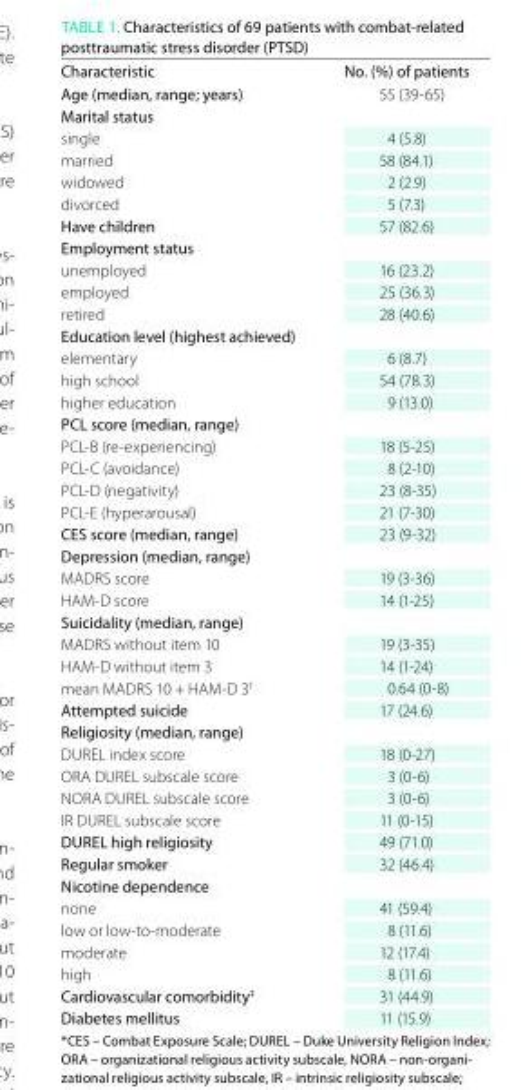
<table><thead><tr><td>Characteristic</td><td>No. (%) of patients</td></tr></thead><tbody><tr><td>Age (median, range; years)</td><td>55 (39-65)</td></tr><tr><td colspan="2">Marital status</td></tr><tr><td>single</td><td>4 (5.8)</td></tr><tr><td>married</td><td>58 (84.1)</td></tr><tr><td>widowed</td><td>2 (2.9)</td></tr><tr><td>divorced</td><td>5 (7.3)</td></tr><tr><td>Have children</td><td>57 (82.6)</td></tr><tr><td colspan="2">Employment status</td></tr><tr><td>unemployed</td><td>16 (23.2)</td></tr><tr><td>employed</td><td>25 (36.3)</td></tr><tr><td>retired</td><td>28 (40.6)</td></tr><tr><td colspan="2">Education level (highest achieved)</td></tr><tr><td>elementary</td><td>6 (8.7)</td></tr><tr><td>high school</td><td>54 (78.3)</td></tr><tr><td>higher education</td><td>9 (13.0)</td></tr><tr><td colspan="2">PCl score (median, range)</td></tr><tr><td>PCL-B (re-experiencing)</td><td>18 (5-25)</td></tr><tr><td>PCL-C (avoidance)</td><td>8 (2-10)</td></tr><tr><td>PCL-D (negativity)</td><td>23 (8-35)</td></tr><tr><td>PCL-E (hyperarousal)</td><td>21 (7-30)</td></tr><tr><td>CES score (median, range)</td><td>23 (9-32)</td></tr><tr><td colspan="2">Depression (median, range)</td></tr><tr><td>MADRS score</td><td>19 (3-36)</td></tr><tr><td>HAM-D score</td><td>14 (1-25)</td></tr><tr><td colspan="2">Suicidality (median, range)</td></tr><tr><td>MADRS without item 10</td><td>19 (3-35)</td></tr><tr><td>HAM-D without item 3</td><td>14 (1-24)</td></tr><tr><td>mean MADRS 10 + HAM-D 3<sup>†</sup></td><td>0.64 (0-8)</td></tr><tr><td>Attempted suicide</td><td>17 (24.6)</td></tr><tr><td colspan="2">Religiosity (median, range)</td></tr><tr><td>DUREL index score</td><td>18 (0-27)</td></tr><tr><td>ORA DUREL subscale score</td><td>3 (0-6)</td></tr><tr><td>NORA DUREL subscale score</td><td>3 (0-6)</td></tr><tr><td>IR DUREL subscale score</td><td>11 (0-15)</td></tr><tr><td>DUREl high religiosity</td><td>49 (71.0)</td></tr><tr><td>Regular smoker</td><td>32 (46.4)</td></tr><tr><td colspan="2">Nicotine dependence</td></tr><tr><td>none</td><td>41 (59.4)</td></tr><tr><td>low or low-to-moderate</td><td>8 (11.6)</td></tr><tr><td>moderate</td><td>12 (17.4)</td></tr><tr><td>high</td><td>8 (11.6)</td></tr><tr><td>Cardiovascular comorbidity<sup>‡</sup></td><td>31 (44.9)</td></tr><tr><td>Diabetes mellitus</td><td>11 (15.9)</td></tr></tbody></table>